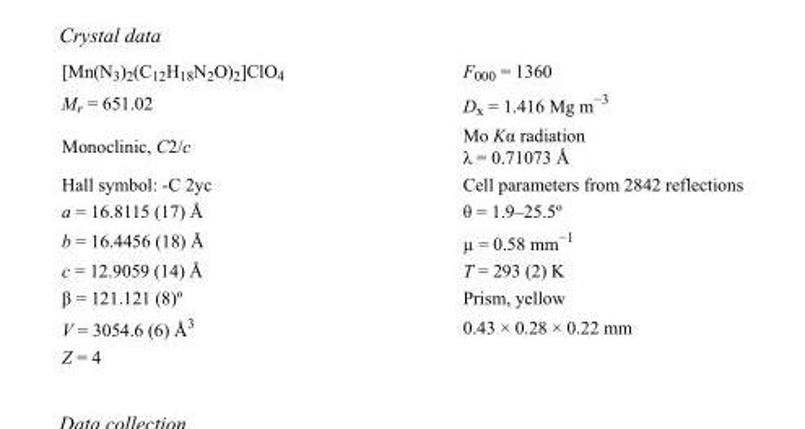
<table><tbody><tr><td>[Mn(N<sub>3</sub>)<sub>2</sub>(C<sub>12</sub>H<sub>18</sub>N<sub>2</sub>O)<sub>2</sub>]ClO<sub>4</sub></td><td>F<sub>000</sub> = 1360</td></tr><tr><td>M<sub>r</sub> = 651.02</td><td>D<sub>x</sub> = 1.416 Mg m<sup>−3</sup></td></tr><tr><td>Monoclinic, C2/c</td><td>Mo Kα radiation λ = 0.71073 Å</td></tr><tr><td>Hall symbol: -C 2yc</td><td>Cell parameters from 2842 reflections</td></tr><tr><td>a = 16.8115 (17) Å</td><td>θ = 1.9–25.5º</td></tr><tr><td>b = 16.4456 (18) Å</td><td>µ = 0.58 mm<sup>−1</sup></td></tr><tr><td>c = 12.9059 (14) Å</td><td>T = 293 (2) K</td></tr><tr><td>β = 121.121 (8)º</td><td>Prism, yellow</td></tr><tr><td>V = 3054.6 (6) Å<sup>3</sup></td><td>0.43 × 0.28 × 0.22 mm</td></tr><tr><td>Z = 4</td><td></td></tr></tbody></table>